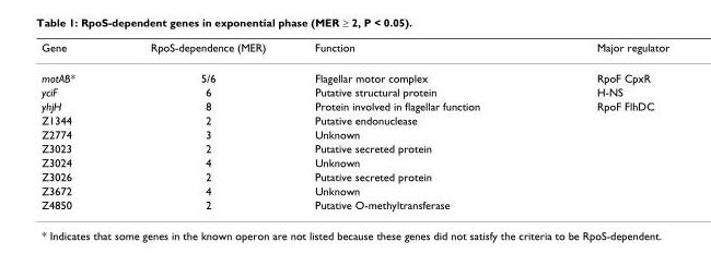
<table><thead><tr><td>Gene</td><td>RpoS-dependence (MER)</td><td>Function</td><td>Major regulator</td></tr></thead><tbody><tr><td>motAB*</td><td>5/6</td><td>Flagellar motor complex</td><td>RpoF CpxR</td></tr><tr><td>yciF</td><td>6</td><td>Putative structural protein</td><td>H-NS</td></tr><tr><td>yhjH</td><td>8</td><td>Protein involved in flagellar function</td><td>RpoF FlhDC</td></tr><tr><td>Z1344</td><td>2</td><td>Putative endonuclease</td><td></td></tr><tr><td>Z2774</td><td>3</td><td>Unknown</td><td></td></tr><tr><td>Z3023</td><td>2</td><td>Putative secreted protein</td><td></td></tr><tr><td>Z3024</td><td>4</td><td>Unknown</td><td></td></tr><tr><td>Z3026</td><td>2</td><td>Putative secreted protein</td><td></td></tr><tr><td>Z3672</td><td>4</td><td>Unknown</td><td></td></tr><tr><td>Z4850</td><td>2</td><td>Putative O-methyltransferase</td><td></td></tr></tbody></table>